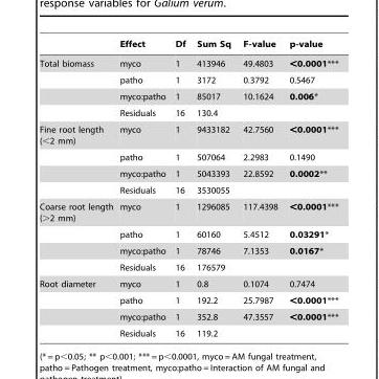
<table><thead><tr><td></td><td>Effect</td><td>Df</td><td>Sum Sq</td><td>F-value</td><td>p-value</td></tr></thead><tbody><tr><td rowspan="4">Total biomass</td><td>myco</td><td>1</td><td>413946</td><td>49.4803</td><td>&lt;0.0001***</td></tr><tr><td>patho</td><td>1</td><td>3172</td><td>0.3792</td><td>0.5467</td></tr><tr><td>myco:patho</td><td>1</td><td>85017</td><td>10.1624</td><td>0.006*</td></tr><tr><td>Residuals</td><td>16</td><td>130.4</td><td></td><td></td></tr><tr><td rowspan="4">Fine root length (&lt;2 mm)</td><td>myco</td><td>1</td><td>9433182</td><td>42.7560</td><td>&lt;0.0001***</td></tr><tr><td>patho</td><td>1</td><td>507064</td><td>2.2983</td><td>0.1490</td></tr><tr><td>myco:patho</td><td>1</td><td>5043393</td><td>22.8592</td><td>0.0002**</td></tr><tr><td>Residuals</td><td>16</td><td>3530055</td><td></td><td></td></tr><tr><td rowspan="4">Coarse root length (&gt;2 mm)</td><td>myco</td><td>1</td><td>1296085</td><td>117.4398</td><td>&lt;0.0001***</td></tr><tr><td>patho</td><td>1</td><td>60160</td><td>5.4512</td><td>0.03291*</td></tr><tr><td>myco:patho</td><td>1</td><td>78746</td><td>7.1353</td><td>0.0167*</td></tr><tr><td>Residuals</td><td>16</td><td>176579</td><td></td><td></td></tr><tr><td rowspan="4">Root diameter</td><td>myco</td><td>1</td><td>0.8</td><td>0.1074</td><td>0.7474</td></tr><tr><td>patho</td><td>1</td><td>192.2</td><td>25.7987</td><td>&lt;0.0001***</td></tr><tr><td>myco:patho</td><td>1</td><td>352.8</td><td>47.3557</td><td>&lt;0.0001***</td></tr><tr><td>Residuals</td><td>16</td><td>119.2</td><td></td><td></td></tr></tbody></table>